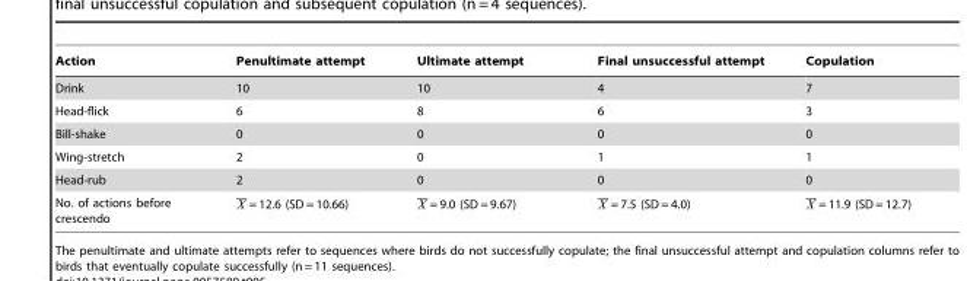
<table><thead><tr><td>Action</td><td>Penultimate attempt</td><td>Ultimate attempt</td><td>Final unsuccessful attempt</td><td>Copulation</td></tr></thead><tbody><tr><td>Drink</td><td>10</td><td>10</td><td>4</td><td>7</td></tr><tr><td>Head-flick</td><td>6</td><td>8</td><td>6</td><td>3</td></tr><tr><td>Bill-shake</td><td>0</td><td>0</td><td>0</td><td>0</td></tr><tr><td>Wing-stretch</td><td>2</td><td>0</td><td>1</td><td>1</td></tr><tr><td>Head-rub</td><td>2</td><td>0</td><td>0</td><td>0</td></tr><tr><td>No. of actions before crescendo</td><td>X = 12.6 (SD = 10.66)</td><td>X = 9.0 (SD = 9.67)</td><td>X = 7.5 (SD = 4.0)</td><td>X = 11.9 (SD = 12.7)</td></tr></tbody></table>